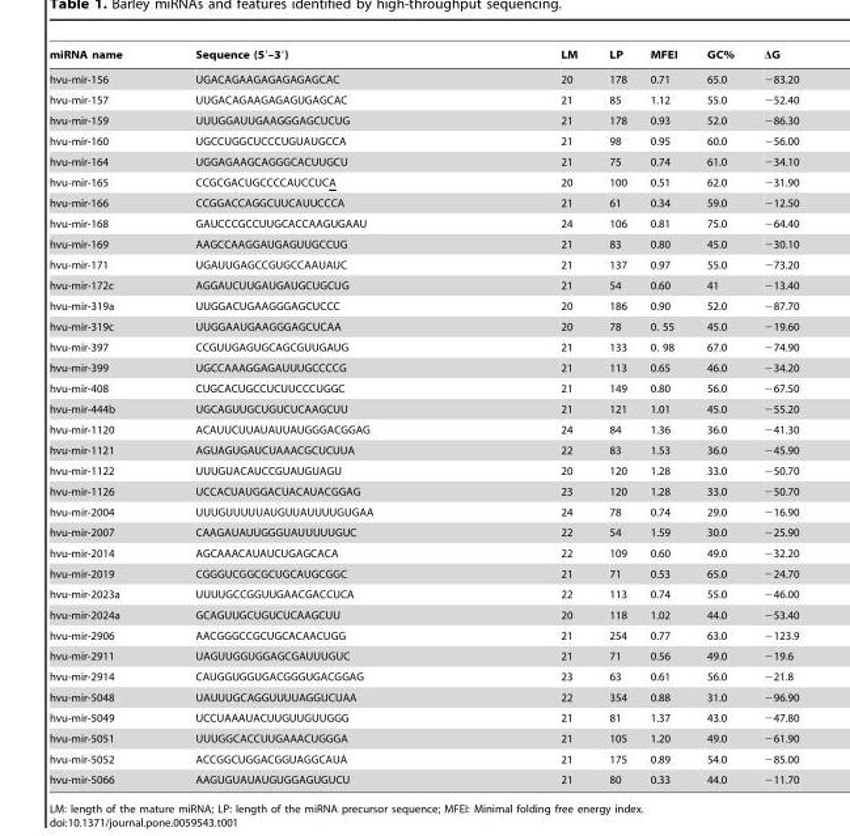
<table><thead><tr><td>miRNA name</td><td>Sequence (5′–3′)</td><td>LM</td><td>LP</td><td>MFEI</td><td>GC%</td><td>ΔG</td></tr></thead><tbody><tr><td>hvu-mir-156</td><td>UGACAGAAGAGAGAGAGCAC</td><td>20</td><td>178</td><td>0.71</td><td>65.0</td><td>−83.20</td></tr><tr><td>hvu-mir-157</td><td>UUGACAGAAGAGAGUGAGCAC</td><td>21</td><td>85</td><td>1.12</td><td>55.0</td><td>−52.40</td></tr><tr><td>hvu-mir-159</td><td>UUUGGAUUGAAGGGAGCUCUG</td><td>21</td><td>178</td><td>0.93</td><td>52.0</td><td>−86.30</td></tr><tr><td>hvu-mir-160</td><td>UGCCUGGCUCCCUGUAUGCCA</td><td>21</td><td>98</td><td>0.95</td><td>60.0</td><td>−56.00</td></tr><tr><td>hvu-mir-164</td><td>UGGAGAAGCAGGGCACUUGCU</td><td>21</td><td>75</td><td>0.74</td><td>61.0</td><td>−34.10</td></tr><tr><td>hvu-mir-165</td><td>CCGCGACUGCCCCAUCCUCA</td><td>20</td><td>100</td><td>0.51</td><td>62.0</td><td>−31.90</td></tr><tr><td>hvu-mir-166</td><td>CCGGACCAGGCUUCAUUCCCA</td><td>21</td><td>61</td><td>0.34</td><td>59.0</td><td>−12.50</td></tr><tr><td>hvu-mir-168</td><td>GAUCCCGCCUUGCACCAAGUGAAU</td><td>24</td><td>106</td><td>0.81</td><td>75.0</td><td>−64.40</td></tr><tr><td>hvu-mir-169</td><td>AAGCCAAGGAUGAGUUGCCUG</td><td>21</td><td>83</td><td>0.80</td><td>45.0</td><td>−30.10</td></tr><tr><td>hvu-mir-171</td><td>UGAUUGAGCCGUGCCAAUAUC</td><td>21</td><td>137</td><td>0.97</td><td>55.0</td><td>−73.20</td></tr><tr><td>hvu-mir-172c</td><td>AGGAUCUUGAUGAUGCUGCUG</td><td>21</td><td>54</td><td>0.60</td><td>41</td><td>−13.40</td></tr><tr><td>hvu-mir-319a</td><td>UUGGACUGAAGGGAGCUCCC</td><td>20</td><td>186</td><td>0.90</td><td>52.0</td><td>−87.70</td></tr><tr><td>hvu-mir-319c</td><td>UUGGAAUGAAGGGAGCUCAA</td><td>20</td><td>78</td><td>0. 55</td><td>45.0</td><td>−19.60</td></tr><tr><td>hvu-mir-397</td><td>CCGUUGAGUGCAGCGUUGAUG</td><td>21</td><td>133</td><td>0. 98</td><td>67.0</td><td>−74.90</td></tr><tr><td>hvu-mir-399</td><td>UGCCAAAGGAGAUUUGCCCCG</td><td>21</td><td>113</td><td>0.65</td><td>46.0</td><td>−34.20</td></tr><tr><td>hvu-mir-408</td><td>CUGCACUGCCUCUUCCCUGGC</td><td>21</td><td>149</td><td>0.80</td><td>56.0</td><td>−67.50</td></tr><tr><td>hvu-mir-444b</td><td>UGCAGUUGCUGUCUCAAGCUU</td><td>21</td><td>121</td><td>1.01</td><td>45.0</td><td>−55.20</td></tr><tr><td>hvu-mir-1120</td><td>ACAUUCUUAUAUUAUGGGACGGAG</td><td>24</td><td>84</td><td>1.36</td><td>36.0</td><td>−41.30</td></tr><tr><td>hvu-mir-1121</td><td>AGUAGUGAUCUAAACGCUCUUA</td><td>22</td><td>83</td><td>1.53</td><td>36.0</td><td>−45.90</td></tr><tr><td>hvu-mir-1122</td><td>UUUGUACAUCCGUAUGUAGU</td><td>20</td><td>120</td><td>1.28</td><td>33.0</td><td>−50.70</td></tr><tr><td>hvu-mir-1126</td><td>UCCACUAUGGACUACAUACGGAG</td><td>23</td><td>120</td><td>1.28</td><td>33.0</td><td>−50.70</td></tr><tr><td>hvu-mir-2004</td><td>UUUGUUUUUAUGUUAUUUUGUGAA</td><td>24</td><td>78</td><td>0.74</td><td>29.0</td><td>−16.90</td></tr><tr><td>hvu-mir-2007</td><td>CAAGAUAUUGGGUAUUUUUGUC</td><td>22</td><td>54</td><td>1.59</td><td>30.0</td><td>−25.90</td></tr><tr><td>hvu-mir-2014</td><td>AGCAAACAUAUCUGAGCACA</td><td>22</td><td>109</td><td>0.60</td><td>49.0</td><td>−32.20</td></tr><tr><td>hvu-mir-2019</td><td>CGGGUCGGCGCUGCAUGCGGC</td><td>21</td><td>71</td><td>0.53</td><td>65.0</td><td>−24.70</td></tr><tr><td>hvu-mir-2023a</td><td>UUUUGCCGGUUGAACGACCUCA</td><td>22</td><td>113</td><td>0.74</td><td>55.0</td><td>−46.00</td></tr><tr><td>hvu-mir-2024a</td><td>GCAGUUGCUGUCUCAAGCUU</td><td>20</td><td>118</td><td>1.02</td><td>44.0</td><td>−53.40</td></tr><tr><td>hvu-mir-2906</td><td>AACGGGCCGCUGCACAACUGG</td><td>21</td><td>254</td><td>0.77</td><td>63.0</td><td>−123.9</td></tr><tr><td>hvu-mir-2911</td><td>UAGUUGGUGGAGCGAUUUGUC</td><td>21</td><td>71</td><td>0.56</td><td>49.0</td><td>−19.6</td></tr><tr><td>hvu-mir-2914</td><td>CAUGGUGGUGACGGGUGACGGAG</td><td>23</td><td>63</td><td>0.61</td><td>56.0</td><td>−21.8</td></tr><tr><td>hvu-mir-5048</td><td>UAUUUGCAGGUUUUAGGUCUAA</td><td>22</td><td>354</td><td>0.88</td><td>31.0</td><td>−96.90</td></tr><tr><td>hvu-mir-5049</td><td>UCCUAAAUACUUGUUGUUGGG</td><td>21</td><td>81</td><td>1.37</td><td>43.0</td><td>−47.80</td></tr><tr><td>hvu-mir-5051</td><td>UUUGGCACCUUGAAACUGGGA</td><td>21</td><td>105</td><td>1.20</td><td>49.0</td><td>−61.90</td></tr><tr><td>hvu-mir-5052</td><td>ACCGGCUGGACGGUAGGCAUA</td><td>21</td><td>175</td><td>0.89</td><td>54.0</td><td>−85.00</td></tr><tr><td>hvu-mir-5066</td><td>AAGUGUAUAUGUGGAGUGUCU</td><td>21</td><td>80</td><td>0.33</td><td>44.0</td><td>−11.70</td></tr></tbody></table>